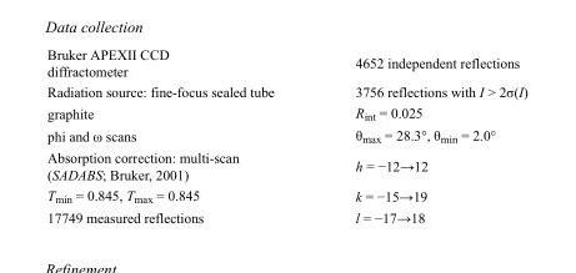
<table><tbody><tr><td>Bruker APEXII CCD diffractometer</td><td>4652 independent reflections</td></tr><tr><td>Radiation source: fine-focus sealed tube</td><td>3756 reflections with I &gt; 2σ(I)</td></tr><tr><td>graphite</td><td>R<sub>int</sub> = 0.025</td></tr><tr><td>phi and ω scans</td><td>θ<sub>max</sub> = 28.3°, θ<sub>min</sub> = 2.0°</td></tr><tr><td>Absorption correction: multi-scan (SADABS; Bruker, 2001)</td><td>h = −12→12</td></tr><tr><td>T<sub>min</sub> = 0.845, T<sub>max</sub> = 0.845</td><td>k = −15→19</td></tr><tr><td>17749 measured reflections</td><td>l = −17→18</td></tr></tbody></table>